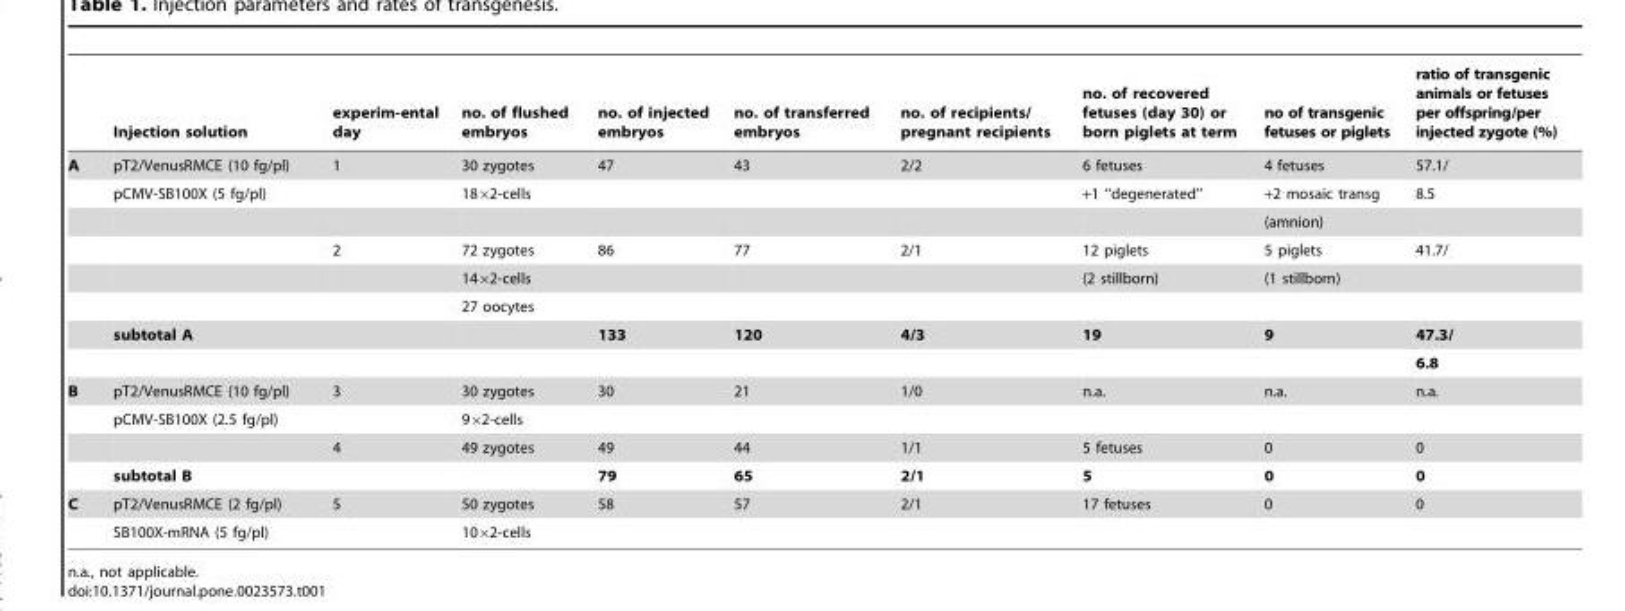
<table><thead><tr><td></td><td>Injection solution</td><td>experim-ental day</td><td>no. of flushed embryos</td><td>no. of injected embryos</td><td>no. of transferred embryos</td><td>no. of recipients/ pregnant recipients</td><td>no. of recovered fetuses (day 30) or born piglets at term</td><td>no of transgenic fetuses or piglets</td><td>ratio of transgenic animals or fetuses per offspring/per injected zygote (%)</td></tr></thead><tbody><tr><td rowspan="8">A</td><td>pT2/VenusRMCE (10 fg/pl)</td><td>1</td><td>30 zygotes</td><td>47</td><td>43</td><td>2/2</td><td>6 fetuses</td><td>4 fetuses</td><td>57.1/</td></tr><tr><td>pCMV-SB100X (5 fg/pl)</td><td></td><td>18×2-cells</td><td></td><td></td><td></td><td>+1 ‘‘degenerated’’</td><td>+2 mosaic transg</td><td>8.5</td></tr><tr><td></td><td></td><td></td><td></td><td></td><td></td><td></td><td>(amnion)</td><td></td></tr><tr><td></td><td>2</td><td>72 zygotes</td><td>86</td><td>77</td><td>2/1</td><td>12 piglets</td><td>5 piglets</td><td>41.7/</td></tr><tr><td></td><td></td><td>14×2-cells</td><td></td><td></td><td></td><td>(2 stillborn)</td><td>(1 stillborn)</td><td></td></tr><tr><td></td><td></td><td>27 oocytes</td><td></td><td></td><td></td><td></td><td></td><td></td></tr><tr><td>subtotal A</td><td></td><td></td><td>133</td><td>120</td><td>4/3</td><td>19</td><td>9</td><td>47.3/</td></tr><tr><td></td><td></td><td></td><td></td><td></td><td></td><td></td><td></td><td>6.8</td></tr><tr><td rowspan="4">B</td><td>pT2/VenusRMCE (10 fg/pl)</td><td>3</td><td>30 zygotes</td><td>30</td><td>21</td><td>1/0</td><td>n.a.</td><td>n.a.</td><td>n.a.</td></tr><tr><td>pCMV-SB100X (2.5 fg/pl)</td><td></td><td>9×2-cells</td><td></td><td></td><td></td><td></td><td></td><td></td></tr><tr><td></td><td>4</td><td>49 zygotes</td><td>49</td><td>44</td><td>1/1</td><td>5 fetuses</td><td>0</td><td>0</td></tr><tr><td>subtotal B</td><td></td><td></td><td>79</td><td>65</td><td>2/1</td><td>5</td><td>0</td><td>0</td></tr><tr><td rowspan="2">C</td><td>pT2/VenusRMCE (2 fg/pl)</td><td>5</td><td>50 zygotes</td><td>58</td><td>57</td><td>2/1</td><td>17 fetuses</td><td>0</td><td>0</td></tr><tr><td>SB100X-mRNA (5 fg/pl)</td><td></td><td>10×2-cells</td><td></td><td></td><td></td><td></td><td></td><td></td></tr></tbody></table>